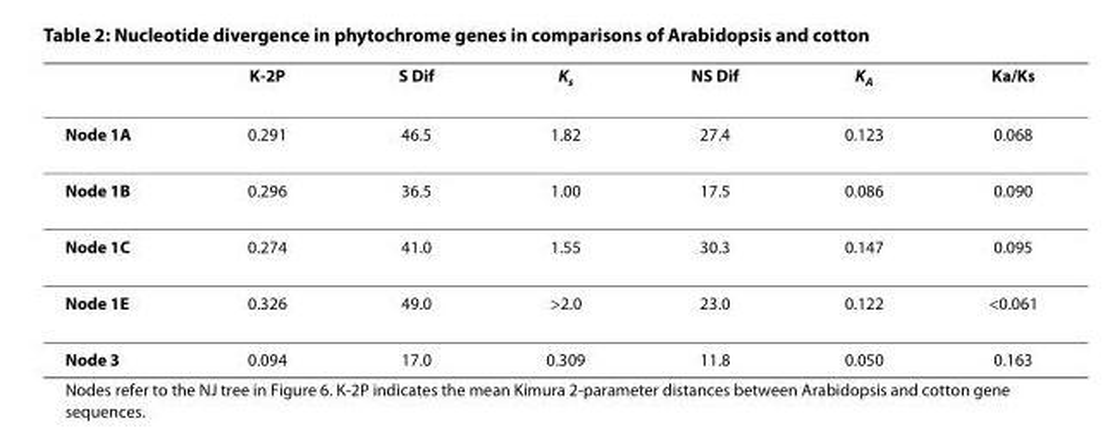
<table><thead><tr><td></td><td>K-2P</td><td>S Dif</td><td>K<sub>s</sub></td><td>NS Dif</td><td>K<sub>A</sub></td><td>Ka/Ks</td></tr></thead><tbody><tr><td>Node 1A</td><td>0.291</td><td>46.5</td><td>1.82</td><td>27.4</td><td>0.123</td><td>0.068</td></tr><tr><td>Node 1B</td><td>0.296</td><td>36.5</td><td>1.00</td><td>17.5</td><td>0.086</td><td>0.090</td></tr><tr><td>Node 1C</td><td>0.274</td><td>41.0</td><td>1.55</td><td>30.3</td><td>0.147</td><td>0.095</td></tr><tr><td>Node 1E</td><td>0.326</td><td>49.0</td><td>&gt;2.0</td><td>23.0</td><td>0.122</td><td>&lt;0.061</td></tr><tr><td>Node 3</td><td>0.094</td><td>17.0</td><td>0.309</td><td>11.8</td><td>0.050</td><td>0.163</td></tr></tbody></table>